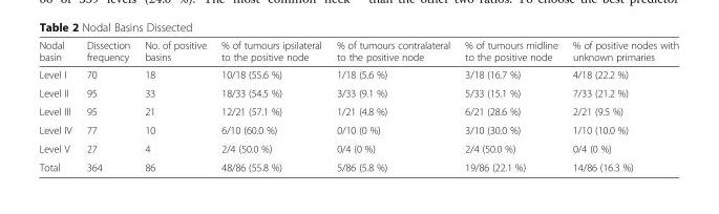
<table><thead><tr><td>Nodal basin</td><td>Dissection frequency</td><td>No. of positive basins</td><td>% of tumours ipsilateral to the positive node</td><td>% of tumours contralateral to the positive node</td><td>% of tumours midline to the positive node</td><td>% of positive nodes with unknown primaries</td></tr></thead><tbody><tr><td>Level I</td><td>70</td><td>18</td><td>10/18 (55.6 %)</td><td>1/18 (5.6 %)</td><td>3/18 (16.7 %)</td><td>4/18 (22.2 %)</td></tr><tr><td>Level II</td><td>95</td><td>33</td><td>18/33 (54.5 %)</td><td>3/33 (9.1 %)</td><td>5/33 (15.1 %)</td><td>7/33 (21.2 %)</td></tr><tr><td>Level III</td><td>95</td><td>21</td><td>12/21 (57.1 %)</td><td>1/21 (4.8 %)</td><td>6/21 (28.6 %)</td><td>2/21 (9.5 %)</td></tr><tr><td>Level IV</td><td>77</td><td>10</td><td>6/10 (60.0 %)</td><td>0/10 (0 %)</td><td>3/10 (30.0 %)</td><td>1/10 (10.0 %)</td></tr><tr><td>Level V</td><td>27</td><td>4</td><td>2/4 (50.0 %)</td><td>0/4 (0 %)</td><td>2/4 (50.0 %)</td><td>0/4 (0 %)</td></tr><tr><td>Total</td><td>364</td><td>86</td><td>48/86 (55.8 %)</td><td>5/86 (5.8 %)</td><td>19/86 (22.1 %)</td><td>14/86 (16.3 %)</td></tr></tbody></table>